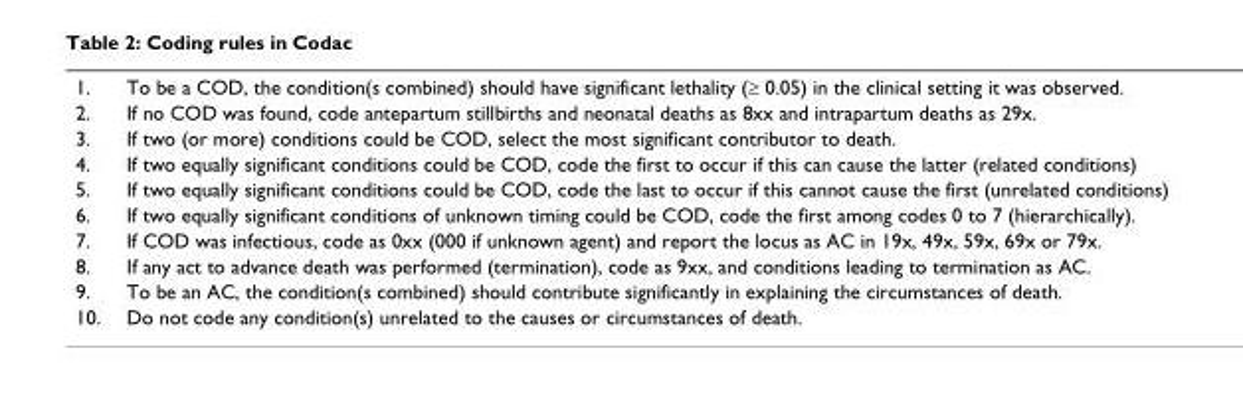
<table><tbody><tr><td>1.</td><td>To be a COD, the condition(s combined) should have significant lethality (≥ 0.05) in the clinical setting it was observed.</td></tr><tr><td>2.</td><td>If no COD was found, code antepartum stillbirths and neonatal deaths as 8xx and intrapartum deaths as 29x.</td></tr><tr><td>3.</td><td>If two (or more) conditions could be COD, select the most significant contributor to death.</td></tr><tr><td>4.</td><td>If two equally significant conditions could be COD, code the first to occur if this can cause the latter (related conditions)</td></tr><tr><td>5.</td><td>If two equally significant conditions could be COD, code the last to occur if this cannot cause the first (unrelated conditions)</td></tr><tr><td>6.</td><td>If two equally significant conditions of unknown timing could be COD, code the first among codes 0 to 7 (hierarchically).</td></tr><tr><td>7.</td><td>If COD was infectious, code as 0xx (000 if unknown agent) and report the locus as AC in 19x, 49x, 59x, 69x or 79x.</td></tr><tr><td>8.</td><td>If any act to advance death was performed (termination), code as 9xx, and conditions leading to termination as AC.</td></tr><tr><td>9.</td><td>To be an AC, the condition(s combined) should contribute significantly in explaining the circumstances of death.</td></tr><tr><td>10.</td><td>Do not code any condition(s) unrelated to the causes or circumstances of death.</td></tr></tbody></table>